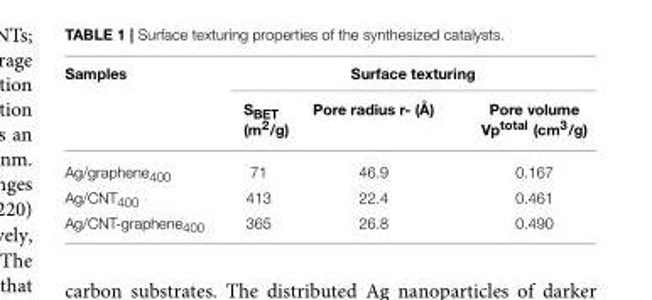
<table><thead><tr><td rowspan="2">Samples</td><td colspan="3">Surface texturing</td></tr><tr><td>SBET (m2/g)</td><td>Pore radius r- (Å)</td><td>Pore volume Vptotal (cm3/g)</td></tr></thead><tbody><tr><td>Ag/graphene400</td><td>71</td><td>46.9</td><td>0.167</td></tr><tr><td>Ag/CNT400</td><td>413</td><td>22.4</td><td>0.461</td></tr><tr><td>Ag/CNT-graphene400</td><td>365</td><td>26.8</td><td>0.490</td></tr></tbody></table>